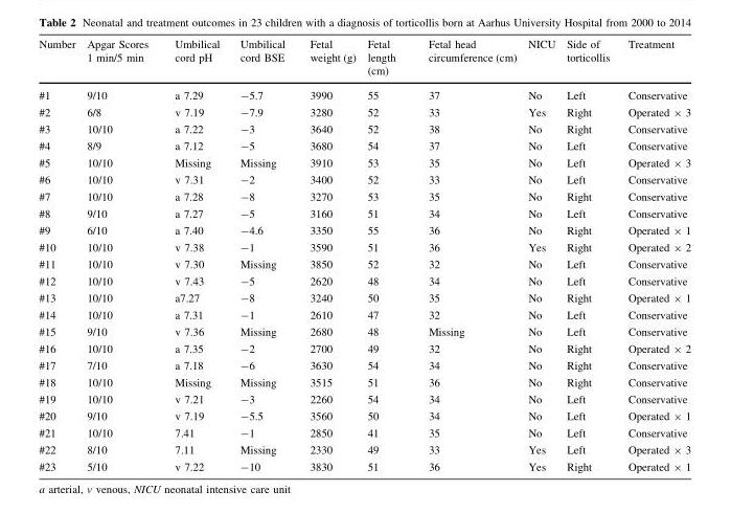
<table><thead><tr><td>Number</td><td>Apgar Scores 1 min/5 min</td><td>Umbilical cord pH</td><td>Umbilical cord BSE</td><td>Fetal weight (g)</td><td>Fetal length (cm)</td><td>Fetal head circumference (cm)</td><td>NICU</td><td>Side of torticollis</td><td>Treatment</td></tr></thead><tbody><tr><td>#1</td><td>9/10</td><td>a 7.29</td><td>-5.7</td><td>3990</td><td>55</td><td>37</td><td>No</td><td>Left</td><td>Conservative</td></tr><tr><td>#2</td><td>6/8</td><td>v 7.19</td><td>-7.9</td><td>3280</td><td>52</td><td>33</td><td>Yes</td><td>Right</td><td>Operated × 3</td></tr><tr><td>#3</td><td>10/10</td><td>a 7.22</td><td>-3</td><td>3640</td><td>52</td><td>38</td><td>No</td><td>Right</td><td>Conservative</td></tr><tr><td>#4</td><td>8/9</td><td>a 7.12</td><td>-5</td><td>3680</td><td>54</td><td>37</td><td>No</td><td>Left</td><td>Conservative</td></tr><tr><td>#5</td><td>10/10</td><td>Missing</td><td>Missing</td><td>3910</td><td>53</td><td>35</td><td>No</td><td>Left</td><td>Operated × 3</td></tr><tr><td>#6</td><td>10/10</td><td>v 7.31</td><td>-2</td><td>3400</td><td>52</td><td>33</td><td>No</td><td>Left</td><td>Conservative</td></tr><tr><td>#7</td><td>10/10</td><td>a 7.28</td><td>-8</td><td>3270</td><td>53</td><td>35</td><td>No</td><td>Right</td><td>Conservative</td></tr><tr><td>#8</td><td>9/10</td><td>a 7.27</td><td>-5</td><td>3160</td><td>51</td><td>34</td><td>No</td><td>Left</td><td>Conservative</td></tr><tr><td>#9</td><td>6/10</td><td>a 7.40</td><td>-4.6</td><td>3350</td><td>55</td><td>36</td><td>No</td><td>Right</td><td>Operated × 1</td></tr><tr><td>#10</td><td>10/10</td><td>v 7.38</td><td>-1</td><td>3590</td><td>51</td><td>36</td><td>Yes</td><td>Right</td><td>Operated × 2</td></tr><tr><td>#11</td><td>10/10</td><td>v 7.30</td><td>Missing</td><td>3850</td><td>52</td><td>32</td><td>No</td><td>Left</td><td>Conservative</td></tr><tr><td>#12</td><td>10/10</td><td>v 7.43</td><td>-5</td><td>2620</td><td>48</td><td>34</td><td>No</td><td>Left</td><td>Conservative</td></tr><tr><td>#13</td><td>10/10</td><td>a7.27</td><td>-8</td><td>3240</td><td>50</td><td>35</td><td>No</td><td>Right</td><td>Operated × 1</td></tr><tr><td>#14</td><td>10/10</td><td>a 7.31</td><td>-1</td><td>2610</td><td>47</td><td>32</td><td>No</td><td>Left</td><td>Conservative</td></tr><tr><td>#15</td><td>9/10</td><td>v 7.36</td><td>Missing</td><td>2680</td><td>48</td><td>Missing</td><td>No</td><td>Left</td><td>Conservative</td></tr><tr><td>#16</td><td>10/10</td><td>a 7.35</td><td>-2</td><td>2700</td><td>49</td><td>32</td><td>No</td><td>Right</td><td>Operated × 2</td></tr><tr><td>#17</td><td>7/10</td><td>a 7.18</td><td>-6</td><td>3630</td><td>54</td><td>34</td><td>No</td><td>Right</td><td>Conservative</td></tr><tr><td>#18</td><td>10/10</td><td>Missing</td><td>Missing</td><td>3515</td><td>51</td><td>36</td><td>No</td><td>Right</td><td>Conservative</td></tr><tr><td>#19</td><td>10/10</td><td>v 7.21</td><td>-3</td><td>2260</td><td>54</td><td>34</td><td>No</td><td>Left</td><td>Conservative</td></tr><tr><td>#20</td><td>9/10</td><td>v 7.19</td><td>-5.5</td><td>3560</td><td>50</td><td>34</td><td>No</td><td>Left</td><td>Operated × 1</td></tr><tr><td>#21</td><td>10/10</td><td>7.41</td><td>-1</td><td>2850</td><td>41</td><td>35</td><td>No</td><td>Left</td><td>Conservative</td></tr><tr><td>#22</td><td>8/10</td><td>7.11</td><td>Missing</td><td>2330</td><td>49</td><td>33</td><td>Yes</td><td>Left</td><td>Operated × 3</td></tr><tr><td>#23</td><td>5/10</td><td>v 7.22</td><td>-10</td><td>3830</td><td>51</td><td>36</td><td>Yes</td><td>Right</td><td>Operated × 1</td></tr></tbody></table>